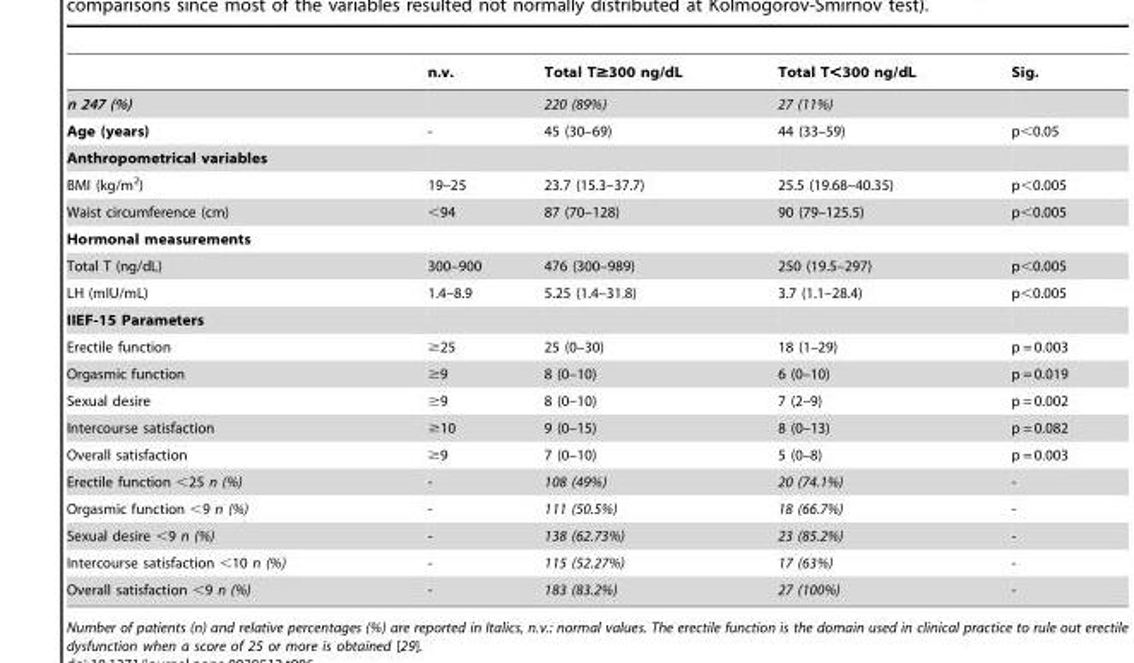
<table><thead><tr><td></td><td>n.v.</td><td>Total T≥300 ng/dL</td><td>Total T&lt;300 ng/dL</td><td>Sig.</td></tr></thead><tbody><tr><td>n 247 (%)</td><td></td><td>220 (89%)</td><td>27 (11%)</td><td></td></tr><tr><td>Age (years)</td><td>-</td><td>45 (30–69)</td><td>44 (33–59)</td><td>p&lt;0.05</td></tr><tr><td colspan="5">Anthropometrical variables</td></tr><tr><td>BMI (kg/m<sup>2</sup>)</td><td>19–25</td><td>23.7 (15.3–37.7)</td><td>25.5 (19.68–40.35)</td><td>p&lt;0.005</td></tr><tr><td>Waist circumference (cm)</td><td>&lt;94</td><td>87 (70–128)</td><td>90 (79–125.5)</td><td>p&lt;0.005</td></tr><tr><td colspan="5">Hormonal measurements</td></tr><tr><td>Total T (ng/dL)</td><td>300–900</td><td>476 (300–989)</td><td>250 (19.5–297)</td><td>p&lt;0.005</td></tr><tr><td>LH (mIU/mL)</td><td>1.4–8.9</td><td>5.25 (1.4–31.8)</td><td>3.7 (1.1–28.4)</td><td>p&lt;0.005</td></tr><tr><td colspan="5">IIEF-15 Parameters</td></tr><tr><td>Erectile function</td><td>≥25</td><td>25 (0–30)</td><td>18 (1–29)</td><td>p = 0.003</td></tr><tr><td>Orgasmic function</td><td>≥9</td><td>8 (0–10)</td><td>6 (0–10)</td><td>p = 0.019</td></tr><tr><td>Sexual desire</td><td>≥9</td><td>8 (0–10)</td><td>7 (2–9)</td><td>p = 0.002</td></tr><tr><td>Intercourse satisfaction</td><td>≥10</td><td>9 (0–15)</td><td>8 (0–13)</td><td>p = 0.082</td></tr><tr><td>Overall satisfaction</td><td>≥9</td><td>7 (0–10)</td><td>5 (0–8)</td><td>p = 0.003</td></tr><tr><td>Erectile function &lt;25 n (%)</td><td>-</td><td>108 (49%)</td><td>20 (74.1%)</td><td>-</td></tr><tr><td>Orgasmic function &lt;9 n (%)</td><td>-</td><td>111 (50.5%)</td><td>18 (66.7%)</td><td>-</td></tr><tr><td>Sexual desire &lt;9 n (%)</td><td>-</td><td>138 (62.73%)</td><td>23 (85.2%)</td><td>-</td></tr><tr><td>Intercourse satisfaction &lt;10 n (%)</td><td>-</td><td>115 (52.27%)</td><td>17 (63%)</td><td>-</td></tr><tr><td>Overall satisfaction &lt;9 n (%)</td><td>-</td><td>183 (83.2%)</td><td>27 (100%)</td><td>-</td></tr></tbody></table>